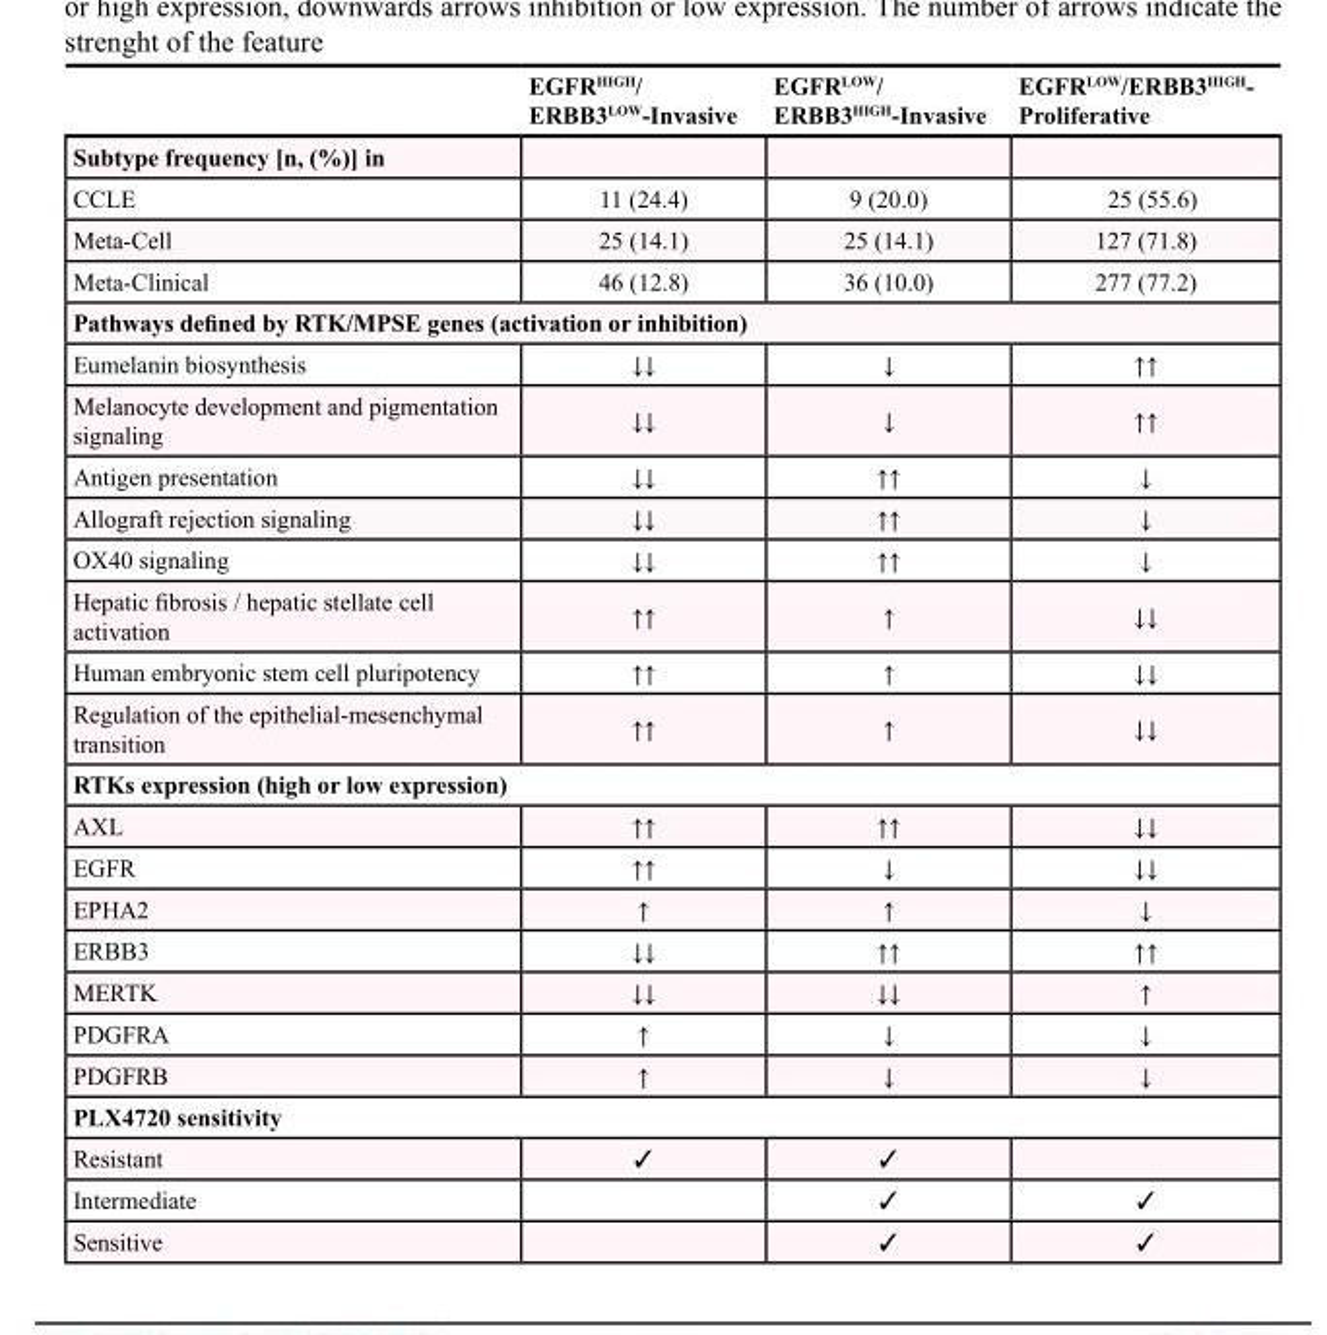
<table><thead><tr><td></td><td>EGFR<sup>HIGH</sup>/ ERBB3<sup>LOW</sup>-Invasive</td><td>EGFR<sup>LOW</sup>/ ERBB3<sup>HIGH</sup>-Invasive</td><td>EGFR<sup>LOW</sup>/ERBB3<sup>HIGH</sup>- Proliferative</td></tr></thead><tbody><tr><td colspan="4">Subtype frequency [n, (%)] in</td></tr><tr><td>CCLE</td><td>11 (24.4)</td><td>9 (20.0)</td><td>25 (55.6)</td></tr><tr><td>Meta-Cell</td><td>25 (14.1)</td><td>25 (14.1)</td><td>127 (71.8)</td></tr><tr><td>Meta-Clinical</td><td>46 (12.8)</td><td>36 (10.0)</td><td>277 (77.2)</td></tr><tr><td colspan="4">Pathways defined by RTK/MPSE genes (activation or inhibition)</td></tr><tr><td>Eumelanin biosynthesis</td><td>↓↓</td><td>↓</td><td>↑↑</td></tr><tr><td>Melanocyte development and pigmentation signaling</td><td>↓↓</td><td>↓</td><td>↑↑</td></tr><tr><td>Antigen presentation</td><td>↓↓</td><td>↑↑</td><td>↓</td></tr><tr><td>Allograft rejection signaling</td><td>↓↓</td><td>↑↑</td><td>↓</td></tr><tr><td>OX40 signaling</td><td>↓↓</td><td>↑↑</td><td>↓</td></tr><tr><td>Hepatic fibrosis / hepatic stellate cell activation</td><td>↑↑</td><td>↑</td><td>↓↓</td></tr><tr><td>Human embryonic stem cell pluripotency</td><td>↑↑</td><td>↑</td><td>↓↓</td></tr><tr><td>Regulation of the epithelial-mesenchymal transition</td><td>↑↑</td><td>↑</td><td>↓↓</td></tr><tr><td colspan="4">RTKs expression (high or low expression)</td></tr><tr><td>AXL</td><td>↑↑</td><td>↑↑</td><td>↓↓</td></tr><tr><td>EGFR</td><td>↑↑</td><td>↓</td><td>↓↓</td></tr><tr><td>EPHA2</td><td>↑</td><td>↑</td><td>↓</td></tr><tr><td>ERBB3</td><td>↓↓</td><td>↑↑</td><td>↑↑</td></tr><tr><td>MERTK</td><td>↓↓</td><td>↓↓</td><td>↑</td></tr><tr><td>PDGFRA</td><td>↑</td><td>↓</td><td>↓</td></tr><tr><td>PDGFRB</td><td>↑</td><td>↓</td><td>↓</td></tr><tr><td colspan="4">PLX4720 sensitivity</td></tr><tr><td>Resistant</td><td>✓</td><td>✓</td><td></td></tr><tr><td>Intermediate</td><td></td><td>✓</td><td>✓</td></tr><tr><td>Sensitive</td><td></td><td>✓</td><td>✓</td></tr></tbody></table>